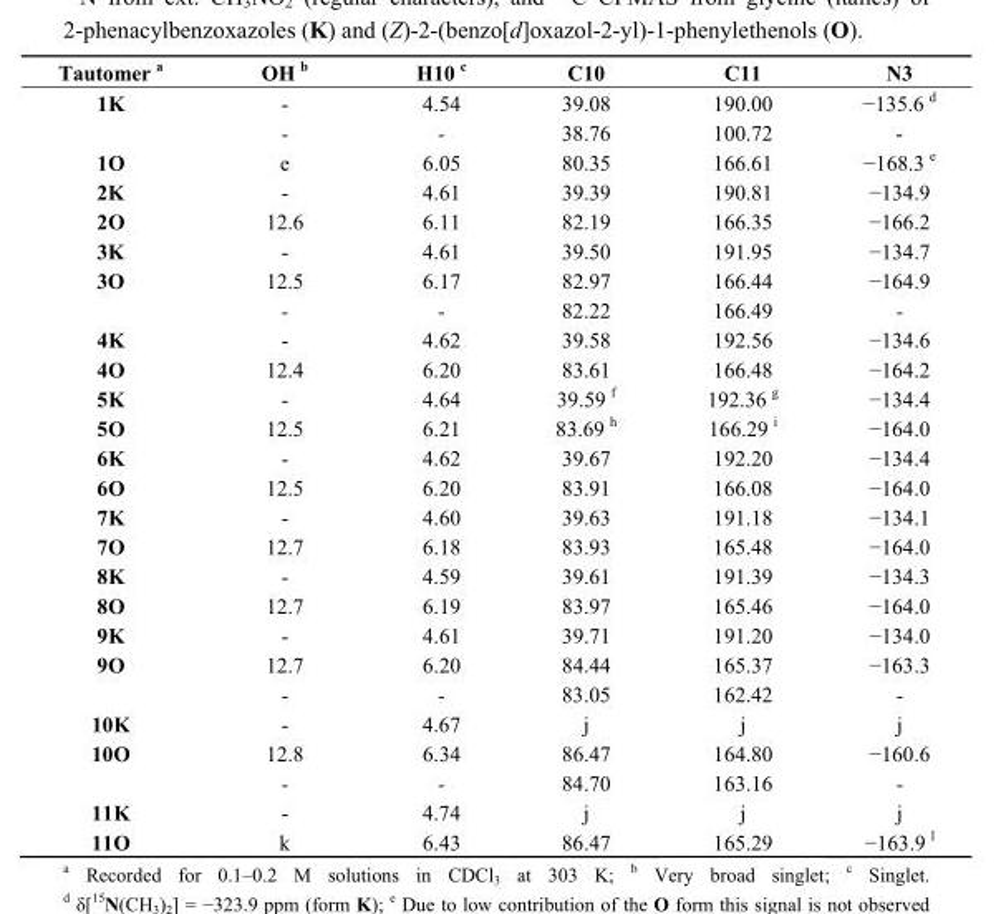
<table><thead><tr><td>Tautomer a</td><td>OH b</td><td>H10 c</td><td>C10</td><td>C11</td><td>N3</td></tr></thead><tbody><tr><td rowspan="2">1K</td><td>-</td><td>4.54</td><td>39.08</td><td>190.00</td><td>−135.6 d</td></tr><tr><td>-</td><td>-</td><td>38.76</td><td>100.72</td><td>-</td></tr><tr><td>1O</td><td>e</td><td>6.05</td><td>80.35</td><td>166.61</td><td>−168.3 e</td></tr><tr><td>2K</td><td>-</td><td>4.61</td><td>39.39</td><td>190.81</td><td>−134.9</td></tr><tr><td>2O</td><td>12.6</td><td>6.11</td><td>82.19</td><td>166.35</td><td>−166.2</td></tr><tr><td>3K</td><td>-</td><td>4.61</td><td>39.50</td><td>191.95</td><td>−134.7</td></tr><tr><td rowspan="2">3O</td><td>12.5</td><td>6.17</td><td>82.97</td><td>166.44</td><td>−164.9</td></tr><tr><td>-</td><td>-</td><td>82.22</td><td>166.49</td><td>-</td></tr><tr><td>4K</td><td>-</td><td>4.62</td><td>39.58</td><td>192.56</td><td>−134.6</td></tr><tr><td>4O</td><td>12.4</td><td>6.20</td><td>83.61</td><td>166.48</td><td>−164.2</td></tr><tr><td>5K</td><td>-</td><td>4.64</td><td>39.59 f</td><td>192.36 g</td><td>−134.4</td></tr><tr><td>5O</td><td>12.5</td><td>6.21</td><td>83.69 h</td><td>166.29 i</td><td>−164.0</td></tr><tr><td>6K</td><td>-</td><td>4.62</td><td>39.67</td><td>192.20</td><td>−134.4</td></tr><tr><td>6O</td><td>12.5</td><td>6.20</td><td>83.91</td><td>166.08</td><td>−164.0</td></tr><tr><td>7K</td><td>-</td><td>4.60</td><td>39.63</td><td>191.18</td><td>−134.1</td></tr><tr><td>7O</td><td>12.7</td><td>6.18</td><td>83.93</td><td>165.48</td><td>−164.0</td></tr><tr><td>8K</td><td>-</td><td>4.59</td><td>39.61</td><td>191.39</td><td>−134.3</td></tr><tr><td>8O</td><td>12.7</td><td>6.19</td><td>83.97</td><td>165.46</td><td>−164.0</td></tr><tr><td>9K</td><td>-</td><td>4.61</td><td>39.71</td><td>191.20</td><td>−134.0</td></tr><tr><td rowspan="2">9O</td><td>12.7</td><td>6.20</td><td>84.44</td><td>165.37</td><td>−163.3</td></tr><tr><td>-</td><td>-</td><td>83.05</td><td>162.42</td><td>-</td></tr><tr><td>10K</td><td>-</td><td>4.67</td><td>j</td><td>j</td><td>j</td></tr><tr><td rowspan="2">10O</td><td>12.8</td><td>6.34</td><td>86.47</td><td>164.80</td><td>−160.6</td></tr><tr><td>-</td><td>-</td><td>84.70</td><td>163.16</td><td>-</td></tr><tr><td>11K</td><td>-</td><td>4.74</td><td>j</td><td>j</td><td>j</td></tr><tr><td>11O</td><td>k</td><td>6.43</td><td>86.47</td><td>165.29</td><td>−163.9 l</td></tr></tbody></table>